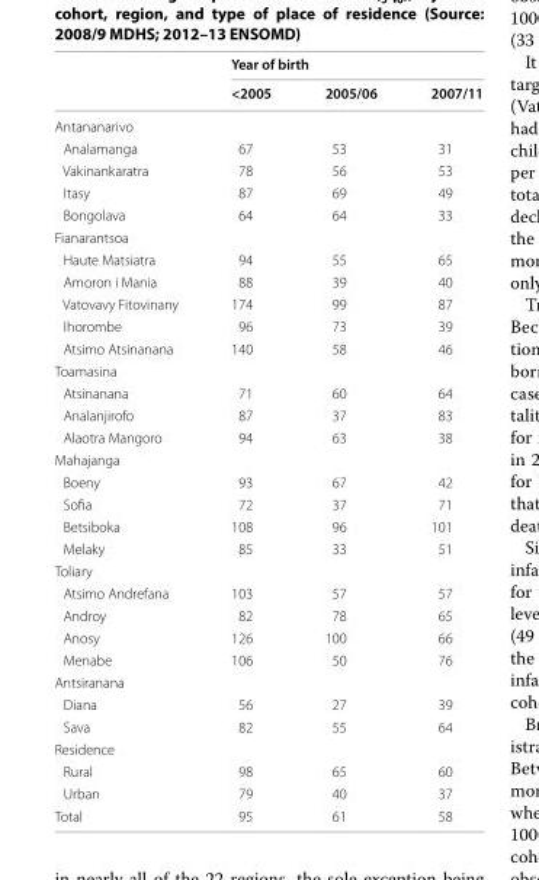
<table><thead><tr><td rowspan="2"></td><td colspan="3">Year of birth</td></tr><tr><td>&lt;2005</td><td>2005/06</td><td>2007/11</td></tr></thead><tbody><tr><td colspan="4">Antananarivo</td></tr><tr><td>Analamanga</td><td>67</td><td>53</td><td>31</td></tr><tr><td>Vakinankaratra</td><td>78</td><td>56</td><td>53</td></tr><tr><td>Itasy</td><td>87</td><td>69</td><td>49</td></tr><tr><td>Bongolava</td><td>64</td><td>64</td><td>33</td></tr><tr><td colspan="4">Fianarantsoa</td></tr><tr><td>Haute Matsiatra</td><td>94</td><td>55</td><td>65</td></tr><tr><td>Amoron i Mania</td><td>88</td><td>39</td><td>40</td></tr><tr><td>Vatovavy Fitovinany</td><td>174</td><td>99</td><td>87</td></tr><tr><td>Ihorombe</td><td>96</td><td>73</td><td>39</td></tr><tr><td>Atsimo Atsinanana</td><td>140</td><td>58</td><td>46</td></tr><tr><td colspan="4">Toamasina</td></tr><tr><td>Atsinanana</td><td>71</td><td>60</td><td>64</td></tr><tr><td>Analanjirofo</td><td>87</td><td>37</td><td>83</td></tr><tr><td>Alaotra Mangoro</td><td>94</td><td>63</td><td>38</td></tr><tr><td colspan="4">Mahajanga</td></tr><tr><td>Boeny</td><td>93</td><td>67</td><td>42</td></tr><tr><td>Sofia</td><td>72</td><td>37</td><td>71</td></tr><tr><td>Betsiboka</td><td>108</td><td>96</td><td>101</td></tr><tr><td>Melaky</td><td>85</td><td>33</td><td>51</td></tr><tr><td colspan="4">Toliary</td></tr><tr><td>Atsimo Andrefana</td><td>103</td><td>57</td><td>57</td></tr><tr><td>Androy</td><td>82</td><td>78</td><td>65</td></tr><tr><td>Anosy</td><td>126</td><td>100</td><td>66</td></tr><tr><td>Menabe</td><td>106</td><td>50</td><td>76</td></tr><tr><td colspan="4">Antsiranana</td></tr><tr><td>Diana</td><td>56</td><td>27</td><td>39</td></tr><tr><td>Sava</td><td>82</td><td>55</td><td>64</td></tr><tr><td colspan="4">Residence</td></tr><tr><td>Rural</td><td>98</td><td>65</td><td>60</td></tr><tr><td>Urban</td><td>79</td><td>40</td><td>37</td></tr><tr><td>Total</td><td>95</td><td>61</td><td>58</td></tr></tbody></table>